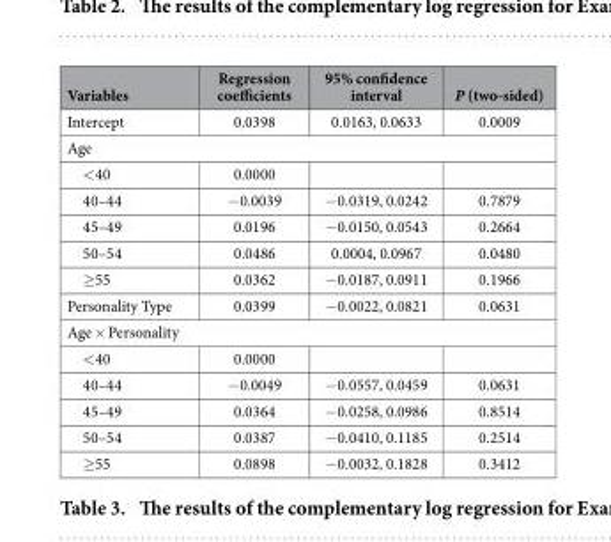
<table><thead><tr><td>Variables</td><td>Regression coefficients</td><td>95% confidence interval</td><td>P (two-sided)</td></tr></thead><tbody><tr><td>Intercept</td><td>0.0398</td><td>0.0163, 0.0633</td><td>0.0009</td></tr><tr><td colspan="4">Age</td></tr><tr><td>&lt; 40</td><td>0.0000</td><td></td><td></td></tr><tr><td>40–44</td><td>− 0.0039</td><td>− 0.0319, 0.0242</td><td>0.7879</td></tr><tr><td>45–49</td><td>0.0196</td><td>− 0.0150, 0.0543</td><td>0.2664</td></tr><tr><td>50–54</td><td>0.0486</td><td>0.0004, 0.0967</td><td>0.0480</td></tr><tr><td>≥ 55</td><td>0.0362</td><td>− 0.0187, 0.0911</td><td>0.1966</td></tr><tr><td>Personality Type</td><td>0.0399</td><td>− 0.0022, 0.0821</td><td>0.0631</td></tr><tr><td colspan="4">Age × Personality</td></tr><tr><td>&lt; 40</td><td>0.0000</td><td></td><td></td></tr><tr><td>40–44</td><td>− 0.0049</td><td>− 0.0557, 0.0459</td><td>0.0631</td></tr><tr><td>45–49</td><td>0.0364</td><td>− 0.0258, 0.0986</td><td>0.8514</td></tr><tr><td>50–54</td><td>0.0387</td><td>− 0.0410, 0.1185</td><td>0.2514</td></tr><tr><td>≥ 55</td><td>0.0898</td><td>− 0.0032, 0.1828</td><td>0.3412</td></tr></tbody></table>